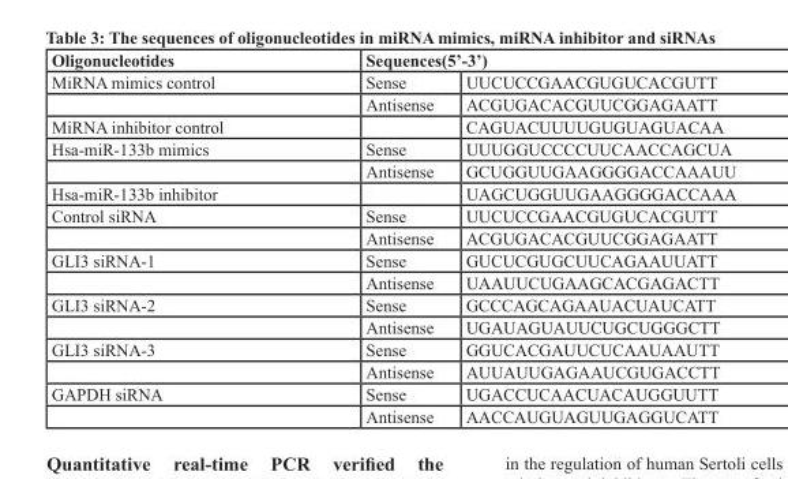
<table><thead><tr><td rowspan="2">Oligonucleotides MiRNA mimics control</td><td colspan="2">Sequences(5’-3’)</td></tr><tr><td>Sense</td><td>UUCUCCGAACGUGUCACGUTT</td></tr></thead><tbody><tr><td></td><td>Antisense</td><td>ACGUGACACGUUCGGAGAATT</td></tr><tr><td>MiRNA inhibitor control</td><td></td><td>CAGUACUUUUGUGUAGUACAA</td></tr><tr><td rowspan="2">Hsa-miR-133b mimics</td><td>Sense</td><td>UUUGGUCCCCUUCAACCAGCUA</td></tr><tr><td>Antisense</td><td>GCUGGUUGAAGGGGACCAAAUU</td></tr><tr><td>Hsa-miR-133b inhibitor</td><td></td><td>UAGCUGGUUGAAGGGGACCAAA</td></tr><tr><td rowspan="2">Control siRNA</td><td>Sense</td><td>UUCUCCGAACGUGUCACGUTT</td></tr><tr><td>Antisense</td><td>ACGUGACACGUUCGGAGAATT</td></tr><tr><td rowspan="2">GLI3 siRNA-1</td><td>Sense</td><td>GUCUCGUGCUUCAGAAUUATT</td></tr><tr><td>Antisense</td><td>UAAUUCUGAAGCACGAGACTT</td></tr><tr><td rowspan="2">GLI3 siRNA-2</td><td>Sense</td><td>GCCCAGCAGAAUACUAUCATT</td></tr><tr><td>Antisense</td><td>UGAUAGUAUUCUGCUGGGCTT</td></tr><tr><td rowspan="2">GLI3 siRNA-3</td><td>Sense</td><td>GGUCACGAUUCUCAAUAAUTT</td></tr><tr><td>Antisense</td><td>AUUAUUGAGAAUCGUGACCTT</td></tr><tr><td rowspan="2">GAPDH siRNA</td><td>Sense</td><td>UGACCUCAACUACAUGGUUTT</td></tr><tr><td>Antisense</td><td>AACCAUGUAGUUGAGGUCATT</td></tr></tbody></table>